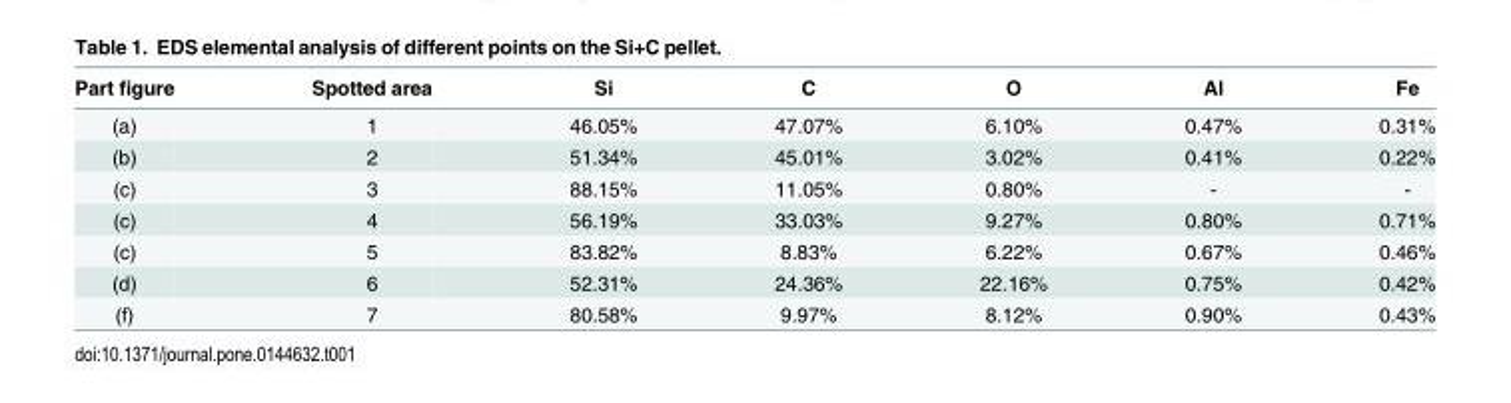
<table><thead><tr><td>Part figure</td><td>Spotted area</td><td>Si</td><td>C</td><td>O</td><td>Al</td><td>Fe</td></tr></thead><tbody><tr><td>(a)</td><td>1</td><td>46.05%</td><td>47.07%</td><td>6.10%</td><td>0.47%</td><td>0.31%</td></tr><tr><td>(b)</td><td>2</td><td>51.34%</td><td>45.01%</td><td>3.02%</td><td>0.41%</td><td>0.22%</td></tr><tr><td>(c)</td><td>3</td><td>88.15%</td><td>11.05%</td><td>0.80%</td><td>-</td><td>-</td></tr><tr><td>(c)</td><td>4</td><td>56.19%</td><td>33.03%</td><td>9.27%</td><td>0.80%</td><td>0.71%</td></tr><tr><td>(c)</td><td>5</td><td>83.82%</td><td>8.83%</td><td>6.22%</td><td>0.67%</td><td>0.46%</td></tr><tr><td>(d)</td><td>6</td><td>52.31%</td><td>24.36%</td><td>22.16%</td><td>0.75%</td><td>0.42%</td></tr><tr><td>(f)</td><td>7</td><td>80.58%</td><td>9.97%</td><td>8.12%</td><td>0.90%</td><td>0.43%</td></tr></tbody></table>